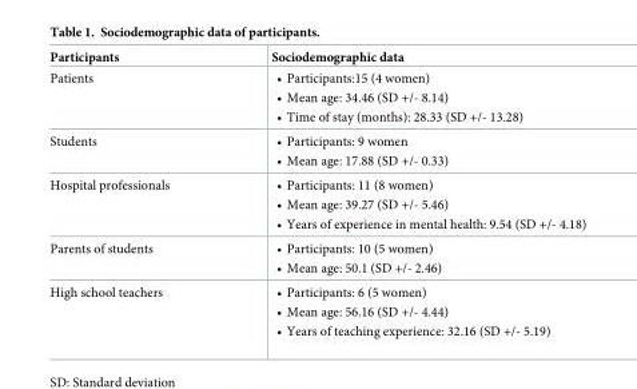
<table><thead><tr><td>Participants</td><td>Sociodemographic data</td></tr></thead><tbody><tr><td>Patients</td><td>• Participants:15 (4 women) • Mean age: 34.46 (SD +/- 8.14) • Time of stay (months): 28.33 (SD +/- 13.28)</td></tr><tr><td>Students</td><td>• Participants: 9 women • Mean age: 17.88 (SD +/- 0.33)</td></tr><tr><td>Hospital professionals</td><td>• Participants: 11 (8 women) • Mean age: 39.27 (SD +/- 5.46) • Years of experience in mental health: 9.54 (SD +/- 4.18)</td></tr><tr><td>Parents of students</td><td>• Participants: 10 (5 women) • Mean age: 50.1 (SD +/- 2.46)</td></tr><tr><td>High school teachers</td><td>• Participants: 6 (5 women) • Mean age: 56.16 (SD +/- 4.44) • Years of teaching experience: 32.16 (SD +/- 5.19)</td></tr></tbody></table>